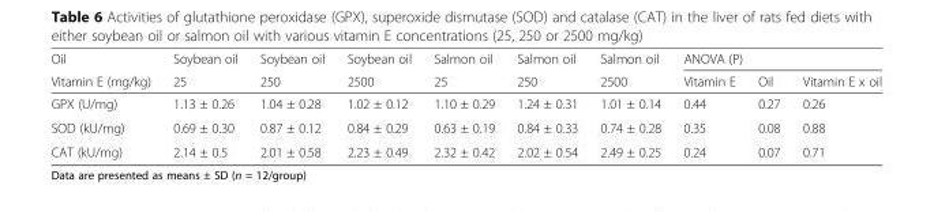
<table><thead><tr><td rowspan="2">Oil Vitamin E (mg/kg)</td><td rowspan="2">Soybean oil 25</td><td rowspan="2">Soybean oil 250</td><td rowspan="2">Soybean oil 2500</td><td rowspan="2">Salmon oil 25</td><td rowspan="2">Salmon oil 250</td><td rowspan="2">Salmon oil 2500</td><td colspan="3">ANOVA (P)</td></tr><tr><td>Vitamin E</td><td>Oil</td><td>Vitamin E x oil</td></tr></thead><tbody><tr><td>GPX (U/mg)</td><td>1.13 ± 0.26</td><td>1.04 ± 0.28</td><td>1.02 ± 0.12</td><td>1.10 ± 0.29</td><td>1.24 ± 0.31</td><td>1.01 ± 0.14</td><td>0.44</td><td>0.27</td><td>0.26</td></tr><tr><td>SOD (kU/mg)</td><td>0.69 ± 0.30</td><td>0.87 ± 0.12</td><td>0.84 ± 0.29</td><td>0.63 ± 0.19</td><td>0.84 ± 0.33</td><td>0.74 ± 0.28</td><td>0.35</td><td>0.08</td><td>0.88</td></tr><tr><td>CAT (kU/mg)</td><td>2.14 ± 0.5</td><td>2.01 ± 0.58</td><td>2.23 ± 0.49</td><td>2.32 ± 0.42</td><td>2.02 ± 0.54</td><td>2.49 ± 0.25</td><td>0.24</td><td>0.07</td><td>0.71</td></tr></tbody></table>